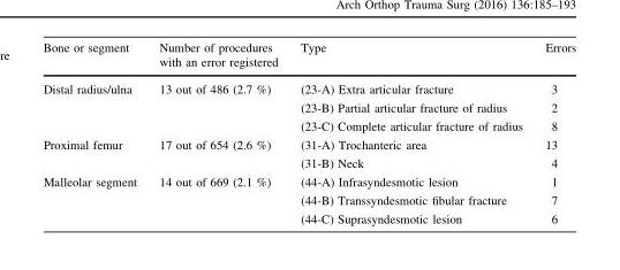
<table><thead><tr><td>Bone or segment</td><td>Number of procedures with an error registered</td><td>Type</td><td>Errors</td></tr></thead><tbody><tr><td rowspan="3">Distal radius/ulna</td><td rowspan="3">13 out of 486 (2.7 %)</td><td>(23-A) Extra articular fracture</td><td>3</td></tr><tr><td>(23-B) Partial articular fracture of radius</td><td>2</td></tr><tr><td>(23-C) Complete articular fracture of radius</td><td>8</td></tr><tr><td rowspan="2">Proximal femur</td><td rowspan="2">17 out of 654 (2.6 %)</td><td>(31-A) Trochanteric area</td><td>13</td></tr><tr><td>(31-B) Neck</td><td>4</td></tr><tr><td rowspan="3">Malleolar segment</td><td rowspan="3">14 out of 669 (2.1 %)</td><td>(44-A) Infrasyndesmotic lesion</td><td>1</td></tr><tr><td>(44-B) Transsyndesmotic fibular fracture</td><td>7</td></tr><tr><td>(44-C) Suprasyndesmotic lesion</td><td>6</td></tr></tbody></table>